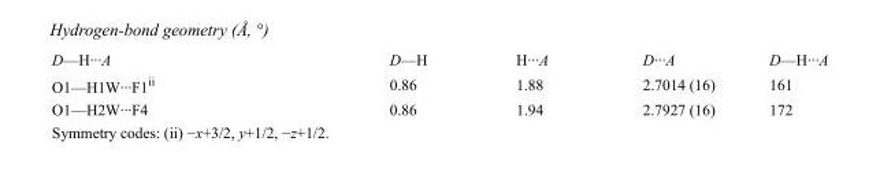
<table><tbody><tr><td>D—H···A</td><td>D—H</td><td>H···A</td><td>D···A</td><td>D—H···A</td></tr><tr><td>O1—H1W···F1<sup>ii</sup></td><td>0.86</td><td>1.88</td><td>2.7014 (16)</td><td>161</td></tr><tr><td>O1—H2W···F4</td><td>0.86</td><td>1.94</td><td>2.7927 (16)</td><td>172</td></tr></tbody></table>